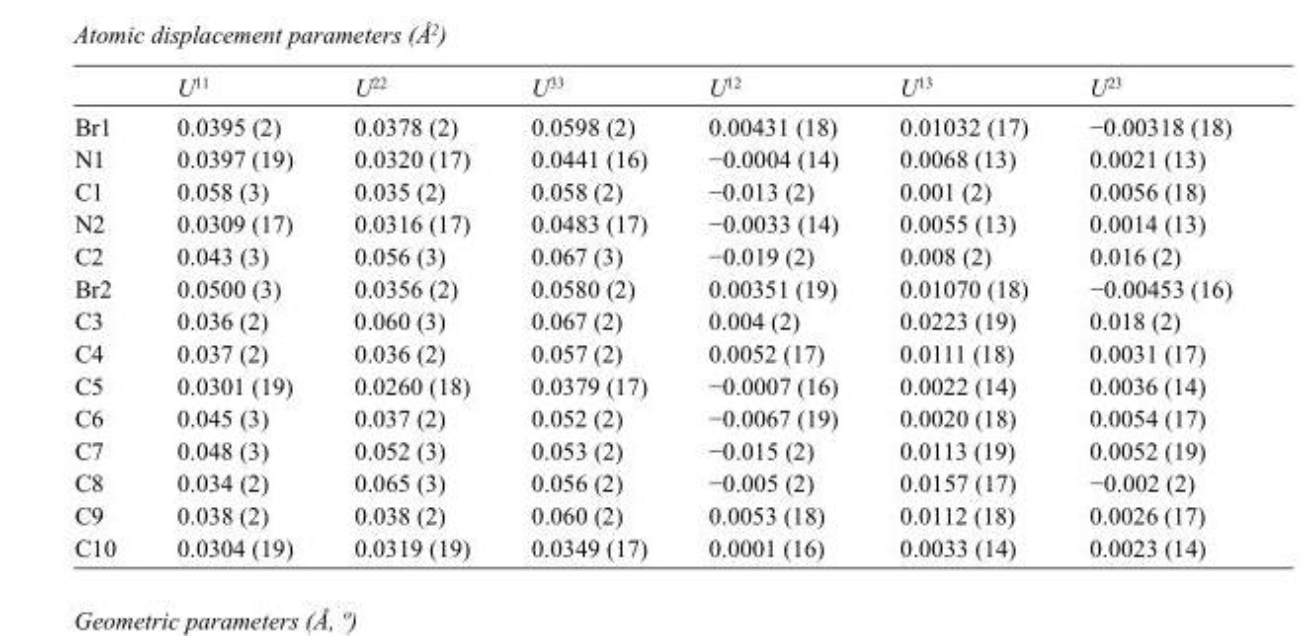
<table><thead><tr><td></td><td>U<sup>11</sup></td><td>U<sup>22</sup></td><td>U<sup>33</sup></td><td>U<sup>12</sup></td><td>U<sup>13</sup></td><td>U<sup>23</sup></td></tr></thead><tbody><tr><td>Br1</td><td>0.0395 (2)</td><td>0.0378 (2)</td><td>0.0598 (2)</td><td>0.00431 (18)</td><td>0.01032 (17)</td><td>−0.00318 (18)</td></tr><tr><td>N1</td><td>0.0397 (19)</td><td>0.0320 (17)</td><td>0.0441 (16)</td><td>−0.0004 (14)</td><td>0.0068 (13)</td><td>0.0021 (13)</td></tr><tr><td>C1</td><td>0.058 (3)</td><td>0.035 (2)</td><td>0.058 (2)</td><td>−0.013 (2)</td><td>0.001 (2)</td><td>0.0056 (18)</td></tr><tr><td>N2</td><td>0.0309 (17)</td><td>0.0316 (17)</td><td>0.0483 (17)</td><td>−0.0033 (14)</td><td>0.0055 (13)</td><td>0.0014 (13)</td></tr><tr><td>C2</td><td>0.043 (3)</td><td>0.056 (3)</td><td>0.067 (3)</td><td>−0.019 (2)</td><td>0.008 (2)</td><td>0.016 (2)</td></tr><tr><td>Br2</td><td>0.0500 (3)</td><td>0.0356 (2)</td><td>0.0580 (2)</td><td>0.00351 (19)</td><td>0.01070 (18)</td><td>−0.00453 (16)</td></tr><tr><td>C3</td><td>0.036 (2)</td><td>0.060 (3)</td><td>0.067 (2)</td><td>0.004 (2)</td><td>0.0223 (19)</td><td>0.018 (2)</td></tr><tr><td>C4</td><td>0.037 (2)</td><td>0.036 (2)</td><td>0.057 (2)</td><td>0.0052 (17)</td><td>0.0111 (18)</td><td>0.0031 (17)</td></tr><tr><td>C5</td><td>0.0301 (19)</td><td>0.0260 (18)</td><td>0.0379 (17)</td><td>−0.0007 (16)</td><td>0.0022 (14)</td><td>0.0036 (14)</td></tr><tr><td>C6</td><td>0.045 (3)</td><td>0.037 (2)</td><td>0.052 (2)</td><td>−0.0067 (19)</td><td>0.0020 (18)</td><td>0.0054 (17)</td></tr><tr><td>C7</td><td>0.048 (3)</td><td>0.052 (3)</td><td>0.053 (2)</td><td>−0.015 (2)</td><td>0.0113 (19)</td><td>0.0052 (19)</td></tr><tr><td>C8</td><td>0.034 (2)</td><td>0.065 (3)</td><td>0.056 (2)</td><td>−0.005 (2)</td><td>0.0157 (17)</td><td>−0.002 (2)</td></tr><tr><td>C9</td><td>0.038 (2)</td><td>0.038 (2)</td><td>0.060 (2)</td><td>0.0053 (18)</td><td>0.0112 (18)</td><td>0.0026 (17)</td></tr><tr><td>C10</td><td>0.0304 (19)</td><td>0.0319 (19)</td><td>0.0349 (17)</td><td>0.0001 (16)</td><td>0.0033 (14)</td><td>0.0023 (14)</td></tr></tbody></table>